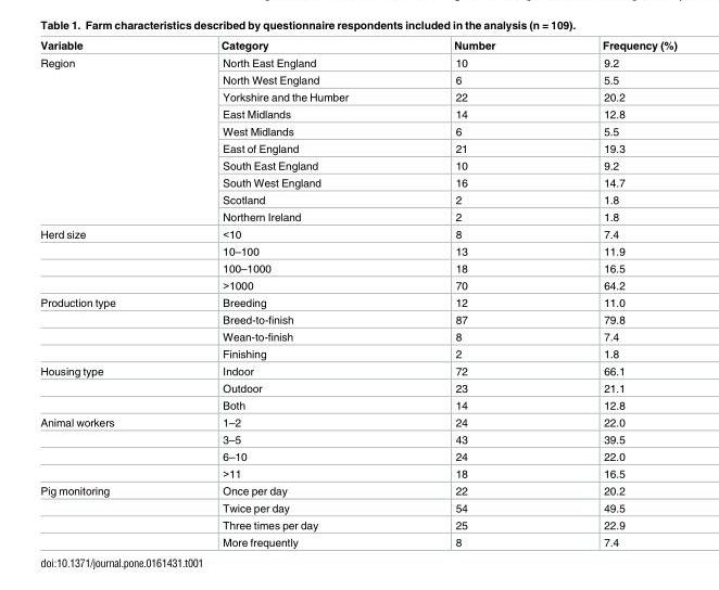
<table><thead><tr><td>Variable</td><td>Category</td><td>Number</td><td>Frequency (%)</td></tr></thead><tbody><tr><td rowspan="10">Region</td><td>North East England</td><td>10</td><td>9.2</td></tr><tr><td>North West England</td><td>6</td><td>5.5</td></tr><tr><td>Yorkshire and the Humber</td><td>22</td><td>20.2</td></tr><tr><td>East Midlands</td><td>14</td><td>12.8</td></tr><tr><td>West Midlands</td><td>6</td><td>5.5</td></tr><tr><td>East of England</td><td>21</td><td>19.3</td></tr><tr><td>South East England</td><td>10</td><td>9.2</td></tr><tr><td>South West England</td><td>16</td><td>14.7</td></tr><tr><td>Scotland</td><td>2</td><td>1.8</td></tr><tr><td>Northern Ireland</td><td>2</td><td>1.8</td></tr><tr><td rowspan="4">Herd size</td><td>&lt;10</td><td>8</td><td>7.4</td></tr><tr><td>10–100</td><td>13</td><td>11.9</td></tr><tr><td>100–1000</td><td>18</td><td>16.5</td></tr><tr><td>&gt;1000</td><td>70</td><td>64.2</td></tr><tr><td rowspan="4">Production type</td><td>Breeding</td><td>12</td><td>11.0</td></tr><tr><td>Breed-to-finish</td><td>87</td><td>79.8</td></tr><tr><td>Wean-to-finish</td><td>8</td><td>7.4</td></tr><tr><td>Finishing</td><td>2</td><td>1.8</td></tr><tr><td rowspan="3">Housing type</td><td>Indoor</td><td>72</td><td>66.1</td></tr><tr><td>Outdoor</td><td>23</td><td>21.1</td></tr><tr><td>Both</td><td>14</td><td>12.8</td></tr><tr><td rowspan="4">Animal workers</td><td>1–2</td><td>24</td><td>22.0</td></tr><tr><td>3–5</td><td>43</td><td>39.5</td></tr><tr><td>6–10</td><td>24</td><td>22.0</td></tr><tr><td>&gt;11</td><td>18</td><td>16.5</td></tr><tr><td rowspan="4">Pig monitoring</td><td>Once per day</td><td>22</td><td>20.2</td></tr><tr><td>Twice per day</td><td>54</td><td>49.5</td></tr><tr><td>Three times per day</td><td>25</td><td>22.9</td></tr><tr><td>More frequently</td><td>8</td><td>7.4</td></tr></tbody></table>